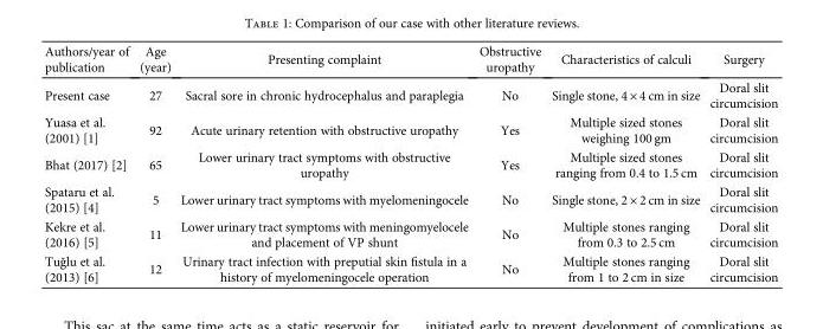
<table><thead><tr><td>Authors/year of publication</td><td>Age (year)</td><td>Presenting complaint</td><td>Obstructive uropathy</td><td>Characteristics of calculi</td><td>Surgery</td></tr></thead><tbody><tr><td>Present case</td><td>27</td><td>Sacral sore in chronic hydrocephalus and paraplegia</td><td>No</td><td>Single stone, 4 × 4 cm in size</td><td>Doral slit circumcision</td></tr><tr><td>Yuasa et al. (2001) [1]</td><td>92</td><td>Acute urinary retention with obstructive uropathy</td><td>Yes</td><td>Multiple sized stones weighing 100 gm</td><td>Doral slit circumcision</td></tr><tr><td>Bhat (2017) [2]</td><td>65</td><td>Lower urinary tract symptoms with obstructive uropathy</td><td>Yes</td><td>Multiple sized stones ranging from 0.4 to 1.5 cm</td><td>Doral slit circumcision</td></tr><tr><td>Spataru et al. (2015) [4]</td><td>5</td><td>Lower urinary tract symptoms with myelomeningocele</td><td>No</td><td>Single stone, 2 × 2 cm in size</td><td>Doral slit circumcision</td></tr><tr><td>Kekre et al. (2016) [5]</td><td>11</td><td>Lower urinary tract symptoms with meningomyelocele and placement of VP shunt</td><td>No</td><td>Multiple stones ranging from 0.3 to 2.5 cm</td><td>Doral slit circumcision</td></tr><tr><td>Tuğlu et al. (2013) [6]</td><td>12</td><td>Urinary tract infection with preputial skin fistula in a history of myelomeningocele operation</td><td>No</td><td>Multiple stones ranging from 1 to 2 cm in size</td><td>Doral slit circumcision</td></tr></tbody></table>